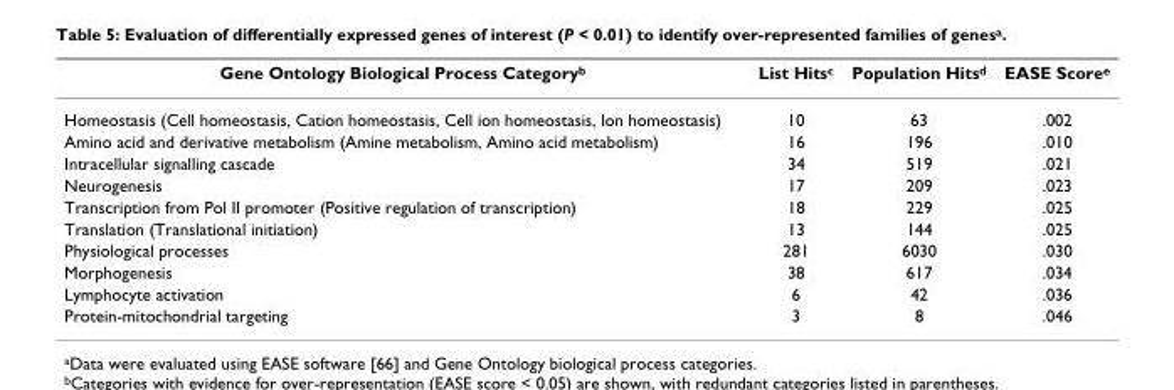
<table><thead><tr><td>Gene Ontology Biological Process Categoryb</td><td>List Hitsc</td><td>Population Hitsd</td><td>EASE Scoree</td></tr></thead><tbody><tr><td>Homeostasis (Cell homeostasis, Cation homeostasis, Cell ion homeostasis, Ion homeostasis)</td><td>10</td><td>63</td><td>.002</td></tr><tr><td>Amino acid and derivative metabolism (Amine metabolism, Amino acid metabolism)</td><td>16</td><td>196</td><td>.010</td></tr><tr><td>Intracellular signalling cascade</td><td>34</td><td>519</td><td>.021</td></tr><tr><td>Neurogenesis</td><td>17</td><td>209</td><td>.023</td></tr><tr><td>Transcription from Pol II promoter (Positive regulation of transcription)</td><td>18</td><td>229</td><td>.025</td></tr><tr><td>Translation (Translational initiation)</td><td>13</td><td>144</td><td>.025</td></tr><tr><td>Physiological processes</td><td>281</td><td>6030</td><td>.030</td></tr><tr><td>Morphogenesis</td><td>38</td><td>617</td><td>.034</td></tr><tr><td>Lymphocyte activation</td><td>6</td><td>42</td><td>.036</td></tr><tr><td>Protein-mitochondrial targeting</td><td>3</td><td>8</td><td>.046</td></tr></tbody></table>